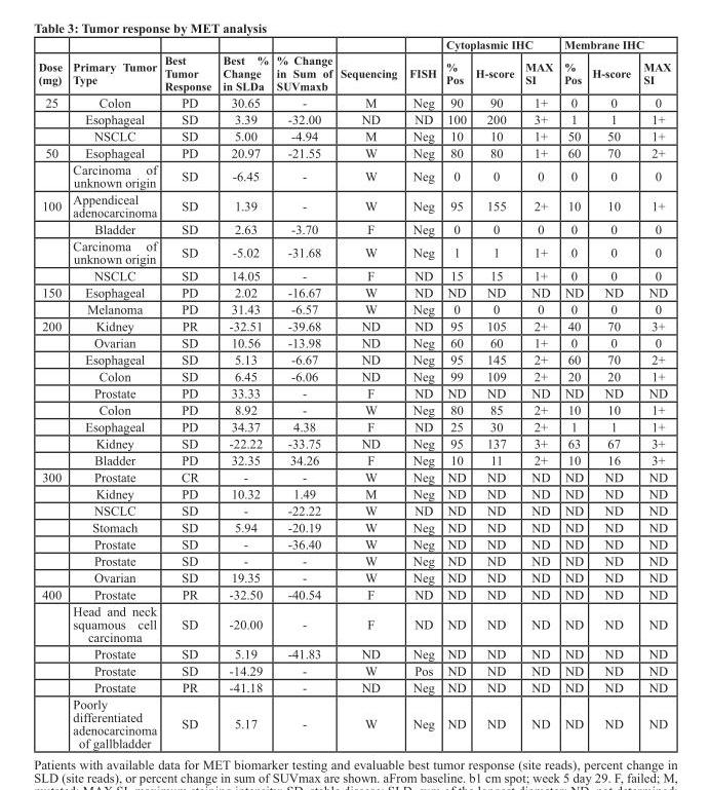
<table><thead><tr><td rowspan="2">Dose (mg)</td><td rowspan="2">Primary Tumor Type</td><td rowspan="2">Best Tumor Response</td><td rowspan="2">Best % Change in SLDa</td><td rowspan="2">% Change in Sum of SUVmaxb</td><td rowspan="2">Sequencing</td><td rowspan="2">FISH</td><td colspan="3">Cytoplasmic IHC</td><td colspan="3">Membrane IHC</td></tr><tr><td>% Pos</td><td>H-score</td><td>MAX SI</td><td>% Pos</td><td>H-score</td><td>MAX SI</td></tr></thead><tbody><tr><td rowspan="3">25</td><td>Colon</td><td>PD</td><td>30.65</td><td>-</td><td>M</td><td>Neg</td><td>90</td><td>90</td><td>1+</td><td>0</td><td>0</td><td>0</td></tr><tr><td>Esophageal</td><td>SD</td><td>3.39</td><td>-32.00</td><td>ND</td><td>ND</td><td>100</td><td>200</td><td>3+</td><td>1</td><td>1</td><td>1+</td></tr><tr><td>NSCLC</td><td>SD</td><td>5.00</td><td>-4.94</td><td>M</td><td>Neg</td><td>10</td><td>10</td><td>1+</td><td>50</td><td>50</td><td>1+</td></tr><tr><td rowspan="2">50</td><td>Esophageal</td><td>PD</td><td>20.97</td><td>-21.55</td><td>W</td><td>Neg</td><td>80</td><td>80</td><td>1+</td><td>60</td><td>70</td><td>2+</td></tr><tr><td>Carcinoma of unknown origin</td><td>SD</td><td>-6.45</td><td>-</td><td>W</td><td>Neg</td><td>0</td><td>0</td><td>0</td><td>0</td><td>0</td><td>0</td></tr><tr><td rowspan="4">100</td><td>Appendiceal adenocarcinoma</td><td>SD</td><td>1.39</td><td>-</td><td>W</td><td>Neg</td><td>95</td><td>155</td><td>2+</td><td>10</td><td>10</td><td>1+</td></tr><tr><td>Bladder</td><td>SD</td><td>2.63</td><td>-3.70</td><td>F</td><td>Neg</td><td>0</td><td>0</td><td>0</td><td>0</td><td>0</td><td>0</td></tr><tr><td>Carcinoma of unknown origin</td><td>SD</td><td>-5.02</td><td>-31.68</td><td>W</td><td>Neg</td><td>1</td><td>1</td><td>1+</td><td>0</td><td>0</td><td>0</td></tr><tr><td>NSCLC</td><td>SD</td><td>14.05</td><td>-</td><td>F</td><td>ND</td><td>15</td><td>15</td><td>1+</td><td>0</td><td>0</td><td>0</td></tr><tr><td rowspan="2">150</td><td>Esophageal</td><td>PD</td><td>2.02</td><td>-16.67</td><td>W</td><td>ND</td><td>ND</td><td>ND</td><td>ND</td><td>ND</td><td>ND</td><td>ND</td></tr><tr><td>Melanoma</td><td>PD</td><td>31.43</td><td>-6.57</td><td>W</td><td>Neg</td><td>0</td><td>0</td><td>0</td><td>0</td><td>0</td><td>0</td></tr><tr><td rowspan="9">200</td><td>Kidney</td><td>PR</td><td>-32.51</td><td>-39.68</td><td>ND</td><td>ND</td><td>95</td><td>105</td><td>2+</td><td>40</td><td>70</td><td>3+</td></tr><tr><td>Ovarian</td><td>SD</td><td>10.56</td><td>-13.98</td><td>ND</td><td>Neg</td><td>60</td><td>60</td><td>1+</td><td>0</td><td>0</td><td>0</td></tr><tr><td>Esophageal</td><td>SD</td><td>5.13</td><td>-6.67</td><td>ND</td><td>Neg</td><td>95</td><td>145</td><td>2+</td><td>60</td><td>70</td><td>2+</td></tr><tr><td>Colon</td><td>SD</td><td>6.45</td><td>-6.06</td><td>ND</td><td>Neg</td><td>99</td><td>109</td><td>2+</td><td>20</td><td>20</td><td>1+</td></tr><tr><td>Prostate</td><td>PD</td><td>33.33</td><td>-</td><td>F</td><td>ND</td><td>ND</td><td>ND</td><td>ND</td><td>ND</td><td>ND</td><td>ND</td></tr><tr><td>Colon</td><td>PD</td><td>8.92</td><td>-</td><td>W</td><td>Neg</td><td>80</td><td>85</td><td>2+</td><td>10</td><td>10</td><td>1+</td></tr><tr><td>Esophageal</td><td>PD</td><td>34.37</td><td>4.38</td><td>F</td><td>ND</td><td>25</td><td>30</td><td>2+</td><td>1</td><td>1</td><td>1+</td></tr><tr><td>Kidney</td><td>SD</td><td>-22.22</td><td>-33.75</td><td>ND</td><td>Neg</td><td>95</td><td>137</td><td>3+</td><td>63</td><td>67</td><td>3+</td></tr><tr><td>Bladder</td><td>PD</td><td>32.35</td><td>34.26</td><td>F</td><td>Neg</td><td>10</td><td>11</td><td>2+</td><td>10</td><td>16</td><td>3+</td></tr><tr><td rowspan="7">300</td><td>Prostate</td><td>CR</td><td>-</td><td>-</td><td>W</td><td>Neg</td><td>ND</td><td>ND</td><td>ND</td><td>ND</td><td>ND</td><td>ND</td></tr><tr><td>Kidney</td><td>PD</td><td>10.32</td><td>1.49</td><td>M</td><td>Neg</td><td>ND</td><td>ND</td><td>ND</td><td>ND</td><td>ND</td><td>ND</td></tr><tr><td>NSCLC</td><td>SD</td><td>-</td><td>-22.22</td><td>W</td><td>ND</td><td>ND</td><td>ND</td><td>ND</td><td>ND</td><td>ND</td><td>ND</td></tr><tr><td>Stomach</td><td>SD</td><td>5.94</td><td>-20.19</td><td>W</td><td>Neg</td><td>ND</td><td>ND</td><td>ND</td><td>ND</td><td>ND</td><td>ND</td></tr><tr><td>Prostate</td><td>SD</td><td>-</td><td>-36.40</td><td>W</td><td>Neg</td><td>ND</td><td>ND</td><td>ND</td><td>ND</td><td>ND</td><td>ND</td></tr><tr><td>Prostate</td><td>SD</td><td>-</td><td>-</td><td>W</td><td>Neg</td><td>ND</td><td>ND</td><td>ND</td><td>ND</td><td>ND</td><td>ND</td></tr><tr><td>Ovarian</td><td>SD</td><td>19.35</td><td>-</td><td>W</td><td>Neg</td><td>ND</td><td>ND</td><td>ND</td><td>ND</td><td>ND</td><td>ND</td></tr><tr><td rowspan="6">400</td><td>Prostate</td><td>PR</td><td>-32.50</td><td>-40.54</td><td>F</td><td>ND</td><td>ND</td><td>ND</td><td>ND</td><td>ND</td><td>ND</td><td>ND</td></tr><tr><td>Head and neck squamous cell carcinoma</td><td>SD</td><td>-20.00</td><td>-</td><td>F</td><td>ND</td><td>ND</td><td>ND</td><td>ND</td><td>ND</td><td>ND</td><td>ND</td></tr><tr><td>Prostate</td><td>SD</td><td>5.19</td><td>-41.83</td><td>ND</td><td>Neg</td><td>ND</td><td>ND</td><td>ND</td><td>ND</td><td>ND</td><td>ND</td></tr><tr><td>Prostate</td><td>SD</td><td>-14.29</td><td>-</td><td>W</td><td>Pos</td><td>ND</td><td>ND</td><td>ND</td><td>ND</td><td>ND</td><td>ND</td></tr><tr><td>Prostate</td><td>PR</td><td>-41.18</td><td>-</td><td>ND</td><td>Neg</td><td>ND</td><td>ND</td><td>ND</td><td>ND</td><td>ND</td><td>ND</td></tr><tr><td>Poorly differentiated adenocarcinoma of gallbladder</td><td>SD</td><td>5.17</td><td>-</td><td>W</td><td>Neg</td><td>ND</td><td>ND</td><td>ND</td><td>ND</td><td>ND</td><td>ND</td></tr></tbody></table>